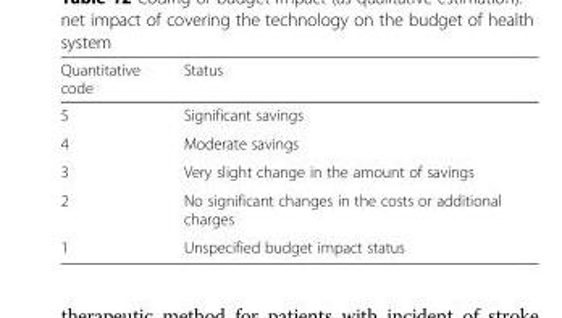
<table><thead><tr><td>Quantitative code</td><td>Status</td></tr></thead><tbody><tr><td>5</td><td>Significant savings</td></tr><tr><td>4</td><td>Moderate savings</td></tr><tr><td>3</td><td>Very slight change in the amount of savings</td></tr><tr><td>2</td><td>No significant changes in the costs or additional charges</td></tr><tr><td>1</td><td>Unspecified budget impact status</td></tr></tbody></table>